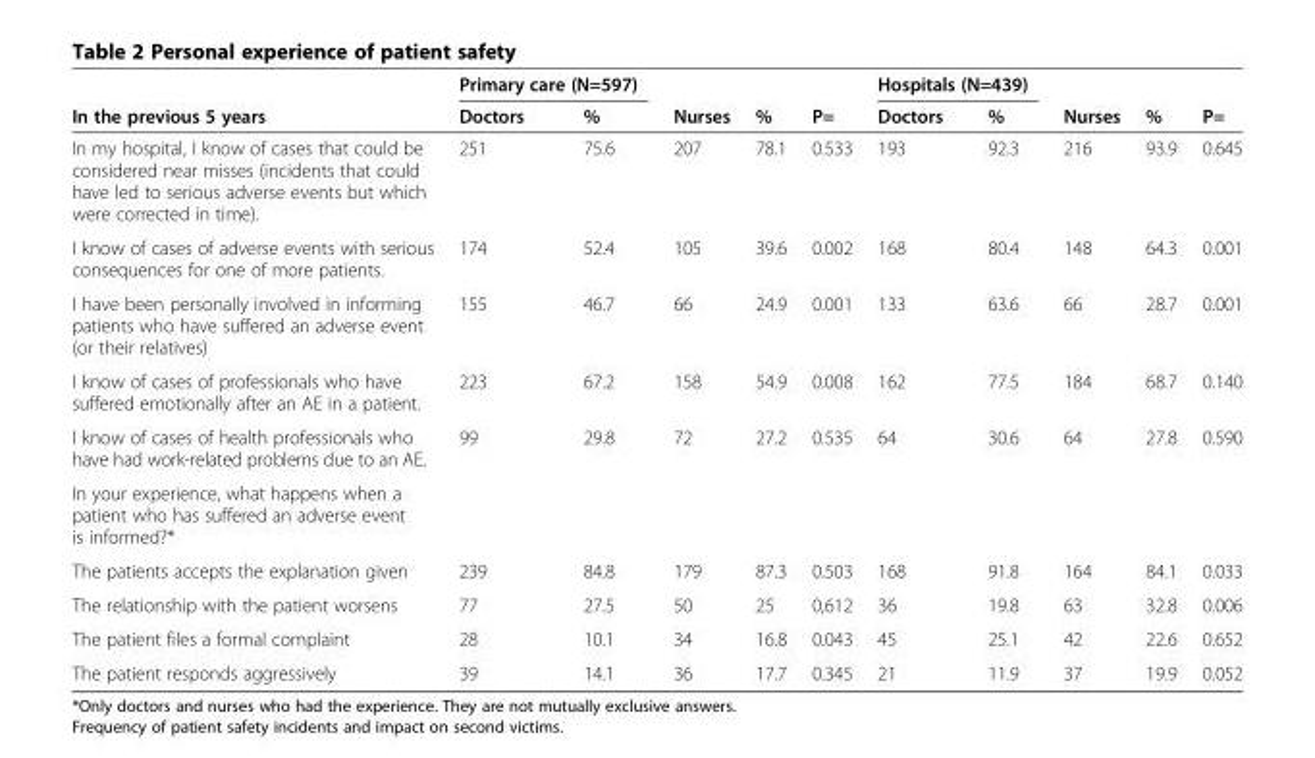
<table><thead><tr><td rowspan="2">In the previous 5 years</td><td colspan="2">Primary care (N=597)</td><td rowspan="2">Nurses</td><td rowspan="2">%</td><td rowspan="2">P=</td><td colspan="2">Hospitals (N=439)</td><td rowspan="2">Nurses</td><td rowspan="2">%</td><td rowspan="2">P=</td></tr><tr><td>Doctors</td><td>%</td><td>Doctors</td><td>%</td></tr></thead><tbody><tr><td>In my hospital, I know of cases that could be considered near misses (incidents that could have led to serious adverse events but which were corrected in time).</td><td>251</td><td>75.6</td><td>207</td><td>78.1</td><td>0.533</td><td>193</td><td>92.3</td><td>216</td><td>93.9</td><td>0.645</td></tr><tr><td>I know of cases of adverse events with serious consequences for one of more patients.</td><td>174</td><td>52.4</td><td>105</td><td>39.6</td><td>0.002</td><td>168</td><td>80.4</td><td>148</td><td>64.3</td><td>0.001</td></tr><tr><td>I have been personally involved in informing patients who have suffered an adverse event (or their relatives)</td><td>155</td><td>46.7</td><td>66</td><td>24.9</td><td>0.001</td><td>133</td><td>63.6</td><td>66</td><td>28.7</td><td>0.001</td></tr><tr><td>I know of cases of professionals who have suffered emotionally after an AE in a patient.</td><td>223</td><td>67.2</td><td>158</td><td>54.9</td><td>0.008</td><td>162</td><td>77.5</td><td>184</td><td>68.7</td><td>0.140</td></tr><tr><td>I know of cases of health professionals who have had work-related problems due to an AE.</td><td>99</td><td>29.8</td><td>72</td><td>27.2</td><td>0.535</td><td>64</td><td>30.6</td><td>64</td><td>27.8</td><td>0.590</td></tr><tr><td colspan="11">In your experience, what happens when a patient who has suffered an adverse event is informed?*</td></tr><tr><td>The patients accepts the explanation given</td><td>239</td><td>84.8</td><td>179</td><td>87.3</td><td>0.503</td><td>168</td><td>91.8</td><td>164</td><td>84.1</td><td>0.033</td></tr><tr><td>The relationship with the patient worsens</td><td>77</td><td>27.5</td><td>50</td><td>25</td><td>0,612</td><td>36</td><td>19.8</td><td>63</td><td>32.8</td><td>0.006</td></tr><tr><td>The patient files a formal complaint</td><td>28</td><td>10.1</td><td>34</td><td>16.8</td><td>0.043</td><td>45</td><td>25.1</td><td>42</td><td>22.6</td><td>0.652</td></tr><tr><td>The patient responds aggressively</td><td>39</td><td>14.1</td><td>36</td><td>17.7</td><td>0.345</td><td>21</td><td>11.9</td><td>37</td><td>19.9</td><td>0.052</td></tr></tbody></table>